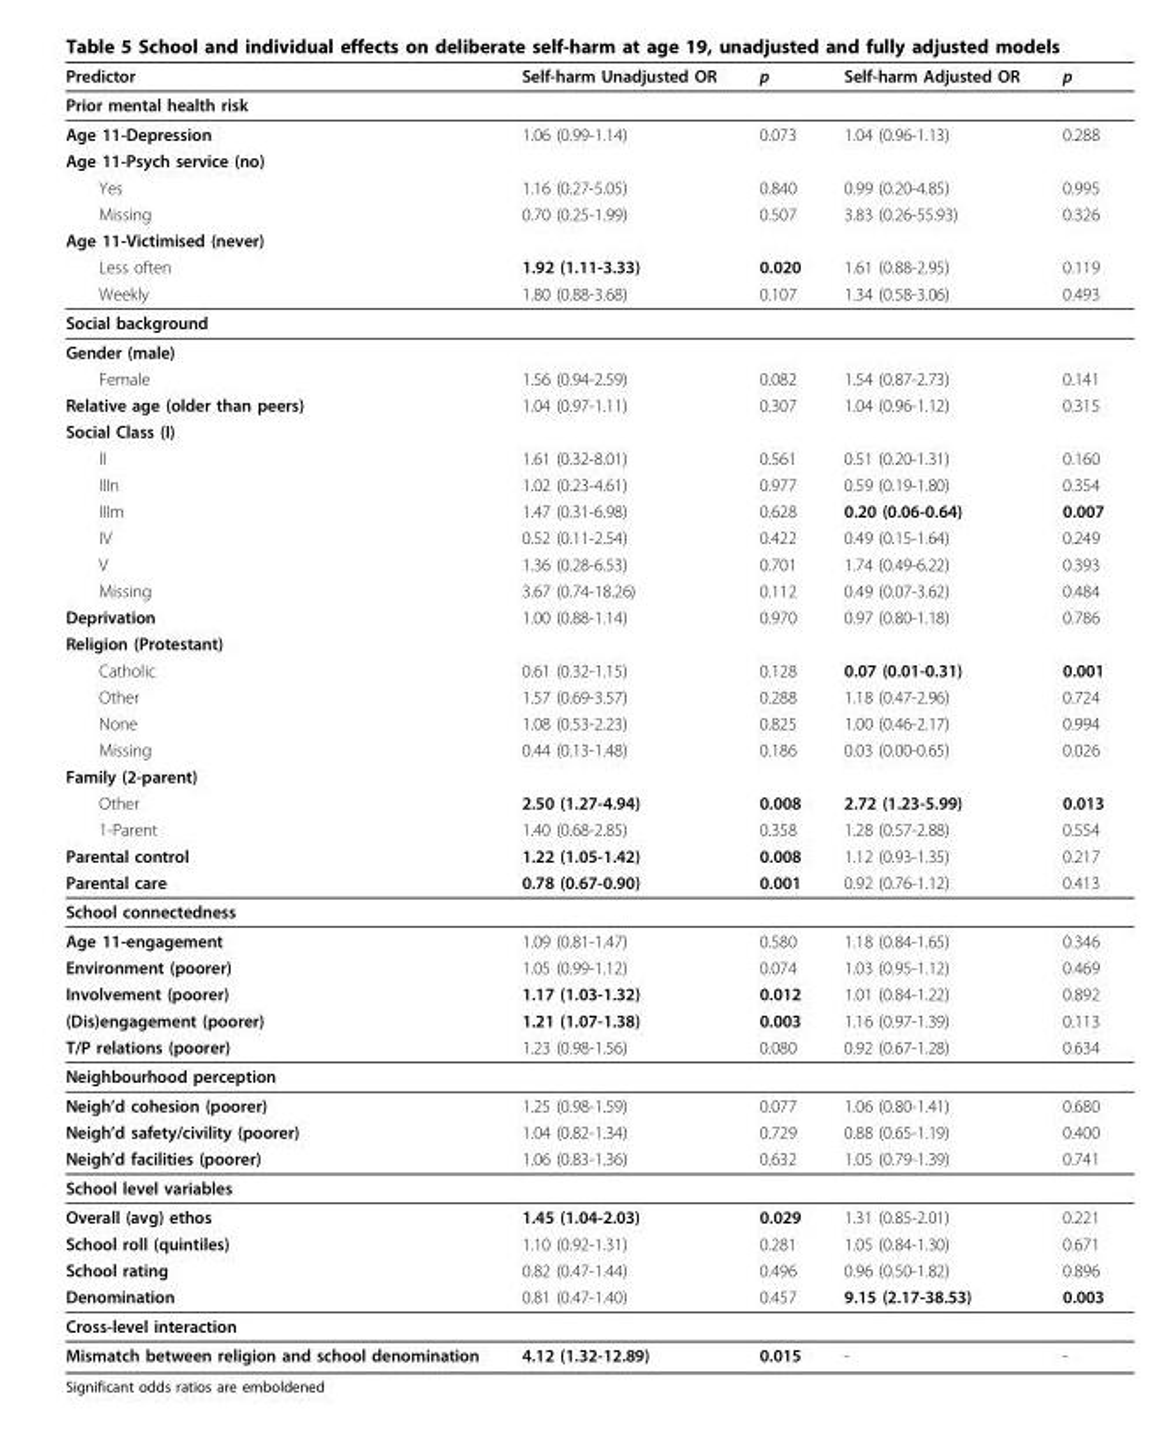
<table><thead><tr><td>Predictor</td><td>Self-harm Unadjusted OR</td><td>p</td><td>Self-harm Adjusted OR</td><td>p</td></tr></thead><tbody><tr><td colspan="5">Prior mental health risk</td></tr><tr><td>Age 11-Depression</td><td>1.06 (0.99-1.14)</td><td>0.073</td><td>1.04 (0.96-1.13)</td><td>0.288</td></tr><tr><td colspan="5">Age 11-Psych service (no)</td></tr><tr><td>Yes</td><td>1.16 (0.27-5.05)</td><td>0.840</td><td>0.99 (0.20-4.85)</td><td>0.995</td></tr><tr><td>Missing</td><td>0.70 (0.25-1.99)</td><td>0.507</td><td>3.83 (0.26-55.93)</td><td>0.326</td></tr><tr><td colspan="5">Age 11-Victimised (never)</td></tr><tr><td>Less often</td><td>1.92 (1.11-3.33)</td><td>0.020</td><td>1.61 (0.88-2.95)</td><td>0.119</td></tr><tr><td>Weekly</td><td>1.80 (0.88-3.68)</td><td>0.107</td><td>1.34 (0.58-3.06)</td><td>0.493</td></tr><tr><td colspan="5">Social background</td></tr><tr><td colspan="5">Gender (male)</td></tr><tr><td>Female</td><td>1.56 (0.94-2.59)</td><td>0.082</td><td>1.54 (0.87-2.73)</td><td>0.141</td></tr><tr><td>Relative age (older than peers)</td><td>1.04 (0.97-1.11)</td><td>0.307</td><td>1.04 (0.96-1.12)</td><td>0.315</td></tr><tr><td colspan="5">Social Class (I)</td></tr><tr><td>II</td><td>1.61 (0.32-8.01)</td><td>0.561</td><td>0.51 (0.20-1.31)</td><td>0.160</td></tr><tr><td>IIIn</td><td>1.02 (0.23-4.61)</td><td>0.977</td><td>0.59 (0.19-1.80)</td><td>0.354</td></tr><tr><td>IIIm</td><td>1.47 (0.31-6.98)</td><td>0.628</td><td>0.20 (0.06-0.64)</td><td>0.007</td></tr><tr><td>IV</td><td>0.52 (0.11-2.54)</td><td>0.422</td><td>0.49 (0.15-1.64)</td><td>0.249</td></tr><tr><td>V</td><td>1.36 (0.28-6.53)</td><td>0.701</td><td>1.74 (0.49-6.22)</td><td>0.393</td></tr><tr><td>Missing</td><td>3.67 (0.74-18.26)</td><td>0.112</td><td>0.49 (0.07-3.62)</td><td>0.484</td></tr><tr><td>Deprivation</td><td>1.00 (0.88-1.14)</td><td>0.970</td><td>0.97 (0.80-1.18)</td><td>0.786</td></tr><tr><td colspan="5">Religion (Protestant)</td></tr><tr><td>Catholic</td><td>0.61 (0.32-1.15)</td><td>0.128</td><td>0.07 (0.01-0.31)</td><td>0.001</td></tr><tr><td>Other</td><td>1.57 (0.69-3.57)</td><td>0.288</td><td>1.18 (0.47-2.96)</td><td>0.724</td></tr><tr><td>None</td><td>1.08 (0.53-2.23)</td><td>0.825</td><td>1.00 (0.46-2.17)</td><td>0.994</td></tr><tr><td>Missing</td><td>0.44 (0.13-1.48)</td><td>0.186</td><td>0.03 (0.00-0.65)</td><td>0.026</td></tr><tr><td colspan="5">Family (2-parent)</td></tr><tr><td>Other</td><td>2.50 (1.27-4.94)</td><td>0.008</td><td>2.72 (1.23-5.99)</td><td>0.013</td></tr><tr><td>1-Parent</td><td>1.40 (0.68-2.85)</td><td>0.358</td><td>1.28 (0.57-2.88)</td><td>0.554</td></tr><tr><td>Parental control</td><td>1.22 (1.05-1.42)</td><td>0.008</td><td>1.12 (0.93-1.35)</td><td>0.217</td></tr><tr><td>Parental care</td><td>0.78 (0.67-0.90)</td><td>0.001</td><td>0.92 (0.76-1.12)</td><td>0.413</td></tr><tr><td colspan="5">School connectedness</td></tr><tr><td>Age 11-engagement</td><td>1.09 (0.81-1.47)</td><td>0.580</td><td>1.18 (0.84-1.65)</td><td>0.346</td></tr><tr><td>Environment (poorer)</td><td>1.05 (0.99-1.12)</td><td>0.074</td><td>1.03 (0.95-1.12)</td><td>0.469</td></tr><tr><td>Involvement (poorer)</td><td>1.17 (1.03-1.32)</td><td>0.012</td><td>1.01 (0.84-1.22)</td><td>0.892</td></tr><tr><td>(Dis)engagement (poorer)</td><td>1.21 (1.07-1.38)</td><td>0.003</td><td>1.16 (0.97-1.39)</td><td>0.113</td></tr><tr><td>T/P relations (poorer)</td><td>1.23 (0.98-1.56)</td><td>0.080</td><td>0.92 (0.67-1.28)</td><td>0.634</td></tr><tr><td colspan="5">Neighbourhood perception</td></tr><tr><td>Neigh’d cohesion (poorer)</td><td>1.25 (0.98-1.59)</td><td>0.077</td><td>1.06 (0.80-1.41)</td><td>0.680</td></tr><tr><td>Neigh’d safety/civility (poorer)</td><td>1.04 (0.82-1.34)</td><td>0.729</td><td>0.88 (0.65-1.19)</td><td>0.400</td></tr><tr><td>Neigh’d facilities (poorer)</td><td>1.06 (0.83-1.36)</td><td>0.632</td><td>1.05 (0.79-1.39)</td><td>0.741</td></tr><tr><td colspan="5">School level variables</td></tr><tr><td>Overall (avg) ethos</td><td>1.45 (1.04-2.03)</td><td>0.029</td><td>1.31 (0.85-2.01)</td><td>0.221</td></tr><tr><td>School roll (quintiles)</td><td>1.10 (0.92-1.31)</td><td>0.281</td><td>1.05 (0.84-1.30)</td><td>0.671</td></tr><tr><td>School rating</td><td>0.82 (0.47-1.44)</td><td>0.496</td><td>0.96 (0.50-1.82)</td><td>0.896</td></tr><tr><td>Denomination</td><td>0.81 (0.47-1.40)</td><td>0.457</td><td>9.15 (2.17-38.53)</td><td>0.003</td></tr><tr><td colspan="5">Cross-level interaction</td></tr><tr><td>Mismatch between religion and school denomination</td><td>4.12 (1.32-12.89)</td><td>0.015</td><td>-</td><td>-</td></tr></tbody></table>